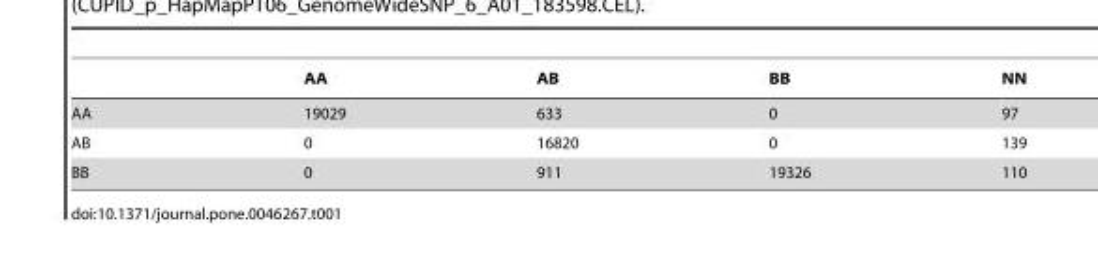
<table><thead><tr><td></td><td>AA</td><td>AB</td><td>BB</td><td>NN</td></tr></thead><tbody><tr><td>AA</td><td>19029</td><td>633</td><td>0</td><td>97</td></tr><tr><td>AB</td><td>0</td><td>16820</td><td>0</td><td>139</td></tr><tr><td>BB</td><td>0</td><td>911</td><td>19326</td><td>110</td></tr></tbody></table>